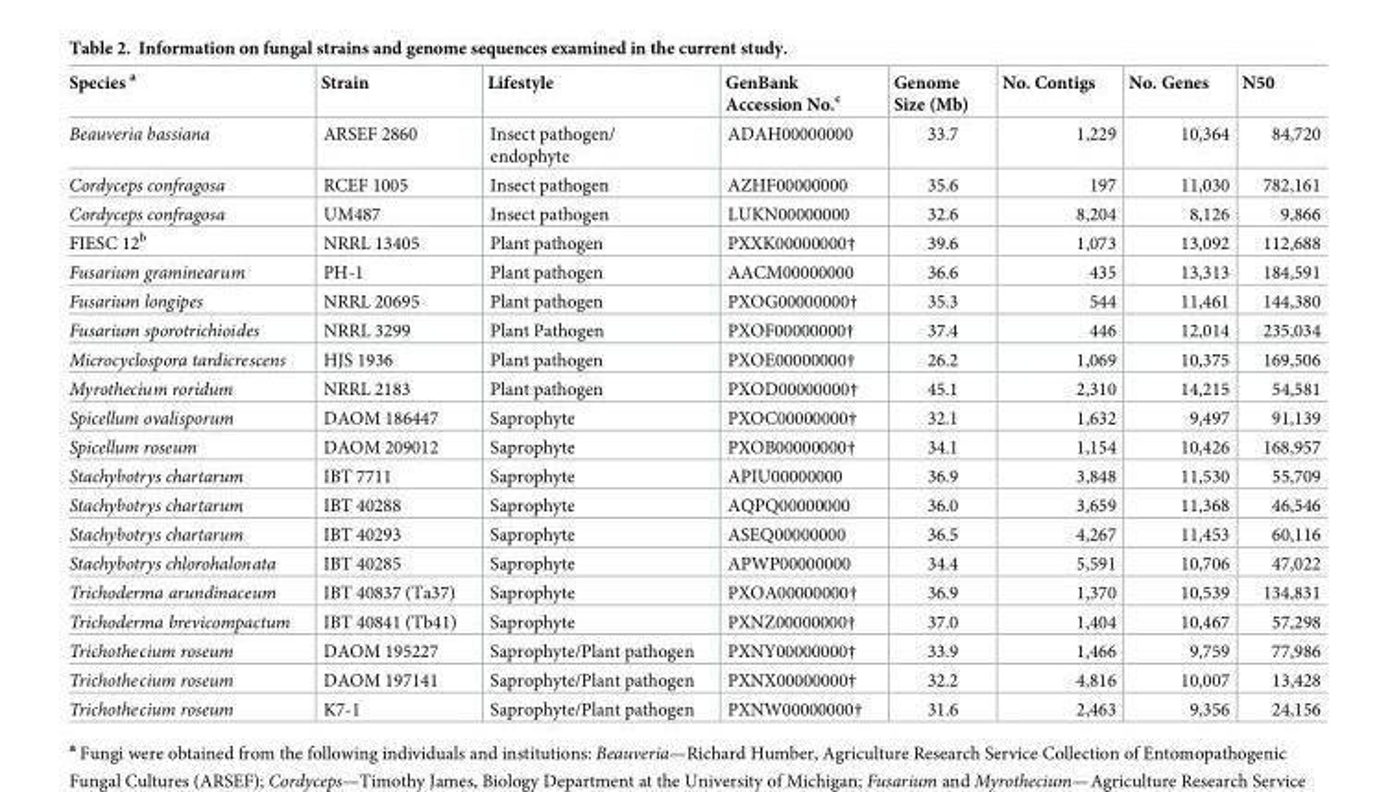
<table><thead><tr><td>Species <sup>a</sup></td><td>Strain</td><td>Lifestyle</td><td>GenBank Accession No.<sup>c</sup></td><td>Genome Size (Mb)</td><td>No. Contigs</td><td>No. Genes</td><td>N50</td></tr></thead><tbody><tr><td>Beauveria bassiana</td><td>ARSEF 2860</td><td>Insect pathogen/ endophyte</td><td>ADAH00000000</td><td>33.7</td><td>1,229</td><td>10,364</td><td>84,720</td></tr><tr><td>Cordyceps confragosa</td><td>RCEF 1005</td><td>Insect pathogen</td><td>AZHF00000000</td><td>35.6</td><td>197</td><td>11,030</td><td>782,161</td></tr><tr><td>Cordyceps confragosa</td><td>UM487</td><td>Insect pathogen</td><td>LUKN00000000</td><td>32.6</td><td>8,204</td><td>8,126</td><td>9,866</td></tr><tr><td>FIESC 12<sup>b</sup></td><td>NRRL 13405</td><td>Plant pathogen</td><td>PXXK00000000†</td><td>39.6</td><td>1,073</td><td>13,092</td><td>112,688</td></tr><tr><td>Fusarium graminearum</td><td>PH-1</td><td>Plant pathogen</td><td>AACM00000000</td><td>36.6</td><td>435</td><td>13,313</td><td>184,591</td></tr><tr><td>Fusarium longipes</td><td>NRRL 20695</td><td>Plant pathogen</td><td>PXOG00000000†</td><td>35.3</td><td>544</td><td>11,461</td><td>144,380</td></tr><tr><td>Fusarium sporotrichioides</td><td>NRRL 3299</td><td>Plant Pathogen</td><td>PXOF00000000†</td><td>37.4</td><td>446</td><td>12,014</td><td>235,034</td></tr><tr><td>Microcyclospora tardicrescens</td><td>HJS 1936</td><td>Plant pathogen</td><td>PXOE00000000†</td><td>26.2</td><td>1,069</td><td>10,375</td><td>169,506</td></tr><tr><td>Myrothecium roridum</td><td>NRRL 2183</td><td>Plant pathogen</td><td>PXOD00000000†</td><td>45.1</td><td>2,310</td><td>14,215</td><td>54,581</td></tr><tr><td>Spicellum ovalisporum</td><td>DAOM 186447</td><td>Saprophyte</td><td>PXOC00000000†</td><td>32.1</td><td>1,632</td><td>9,497</td><td>91,139</td></tr><tr><td>Spicellum roseum</td><td>DAOM 209012</td><td>Saprophyte</td><td>PXOB00000000†</td><td>34.1</td><td>1,154</td><td>10,426</td><td>168,957</td></tr><tr><td>Stachybotrys chartarum</td><td>IBT 7711</td><td>Saprophyte</td><td>APIU00000000</td><td>36.9</td><td>3,848</td><td>11,530</td><td>55,709</td></tr><tr><td>Stachybotrys chartarum</td><td>IBT 40288</td><td>Saprophyte</td><td>AQPQ00000000</td><td>36.0</td><td>3,659</td><td>11,368</td><td>46,546</td></tr><tr><td>Stachybotrys chartarum</td><td>IBT 40293</td><td>Saprophyte</td><td>ASEQ00000000</td><td>36.5</td><td>4,267</td><td>11,453</td><td>60,116</td></tr><tr><td>Stachybotrys chlorohalonata</td><td>IBT 40285</td><td>Saprophyte</td><td>APWP00000000</td><td>34.4</td><td>5,591</td><td>10,706</td><td>47,022</td></tr><tr><td>Trichoderma arundinaceum</td><td>IBT 40837 (Ta37)</td><td>Saprophyte</td><td>PXOA00000000†</td><td>36.9</td><td>1,370</td><td>10,539</td><td>134,831</td></tr><tr><td>Trichoderma brevicompactum</td><td>IBT 40841 (Tb41)</td><td>Saprophyte</td><td>PXNZ00000000†</td><td>37.0</td><td>1,404</td><td>10,467</td><td>57,298</td></tr><tr><td>Trichothecium roseum</td><td>DAOM 195227</td><td>Saprophyte/Plant pathogen</td><td>PXNY00000000†</td><td>33.9</td><td>1,466</td><td>9,759</td><td>77,986</td></tr><tr><td>Trichothecium roseum</td><td>DAOM 197141</td><td>Saprophyte/Plant pathogen</td><td>PXNX00000000†</td><td>32.2</td><td>4,816</td><td>10,007</td><td>13,428</td></tr><tr><td>Trichothecium roseum</td><td>K7-1</td><td>Saprophyte/Plant pathogen</td><td>PXNW00000000†</td><td>31.6</td><td>2,463</td><td>9,356</td><td>24,156</td></tr></tbody></table>